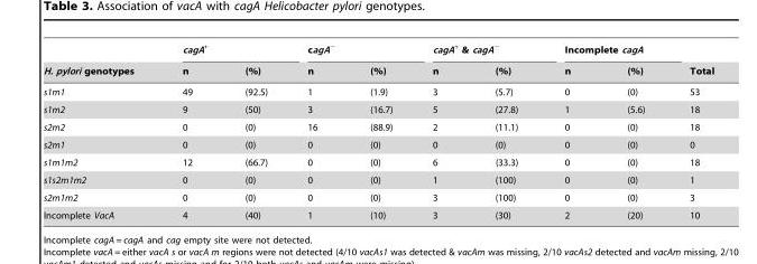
<table><thead><tr><td rowspan="2">H. pylori genotypes</td><td colspan="2">cagA<sup>+</sup></td><td colspan="2">cagA<sup>−</sup></td><td colspan="2">cagA<sup>+</sup> &amp; cagA<sup>−</sup></td><td colspan="2">Incomplete cagA</td><td rowspan="2">Total</td></tr><tr><td>n</td><td>(%)</td><td>n</td><td>(%)</td><td>n</td><td>(%)</td><td>n</td><td>(%)</td></tr></thead><tbody><tr><td>s1m1</td><td>49</td><td>(92.5)</td><td>1</td><td>(1.9)</td><td>3</td><td>(5.7)</td><td>0</td><td>(0)</td><td>53</td></tr><tr><td>s1m2</td><td>9</td><td>(50)</td><td>3</td><td>(16.7)</td><td>5</td><td>(27.8)</td><td>1</td><td>(5.6)</td><td>18</td></tr><tr><td>s2m2</td><td>0</td><td>(0)</td><td>16</td><td>(88.9)</td><td>2</td><td>(11.1)</td><td>0</td><td>(0)</td><td>18</td></tr><tr><td>s2m1</td><td>0</td><td>(0)</td><td>0</td><td>(0)</td><td>0</td><td>(0)</td><td>0</td><td>(0)</td><td>0</td></tr><tr><td>s1m1m2</td><td>12</td><td>(66.7)</td><td>0</td><td>(0)</td><td>6</td><td>(33.3)</td><td>0</td><td>(0)</td><td>18</td></tr><tr><td>s1s2m1m2</td><td>0</td><td>(0)</td><td>0</td><td>(0)</td><td>1</td><td>(100)</td><td>0</td><td>(0)</td><td>1</td></tr><tr><td>s2m1m2</td><td>0</td><td>(0)</td><td>0</td><td>(0)</td><td>3</td><td>(100)</td><td>0</td><td>(0)</td><td>3</td></tr><tr><td>Incomplete VacA</td><td>4</td><td>(40)</td><td>1</td><td>(10)</td><td>3</td><td>(30)</td><td>2</td><td>(20)</td><td>10</td></tr></tbody></table>